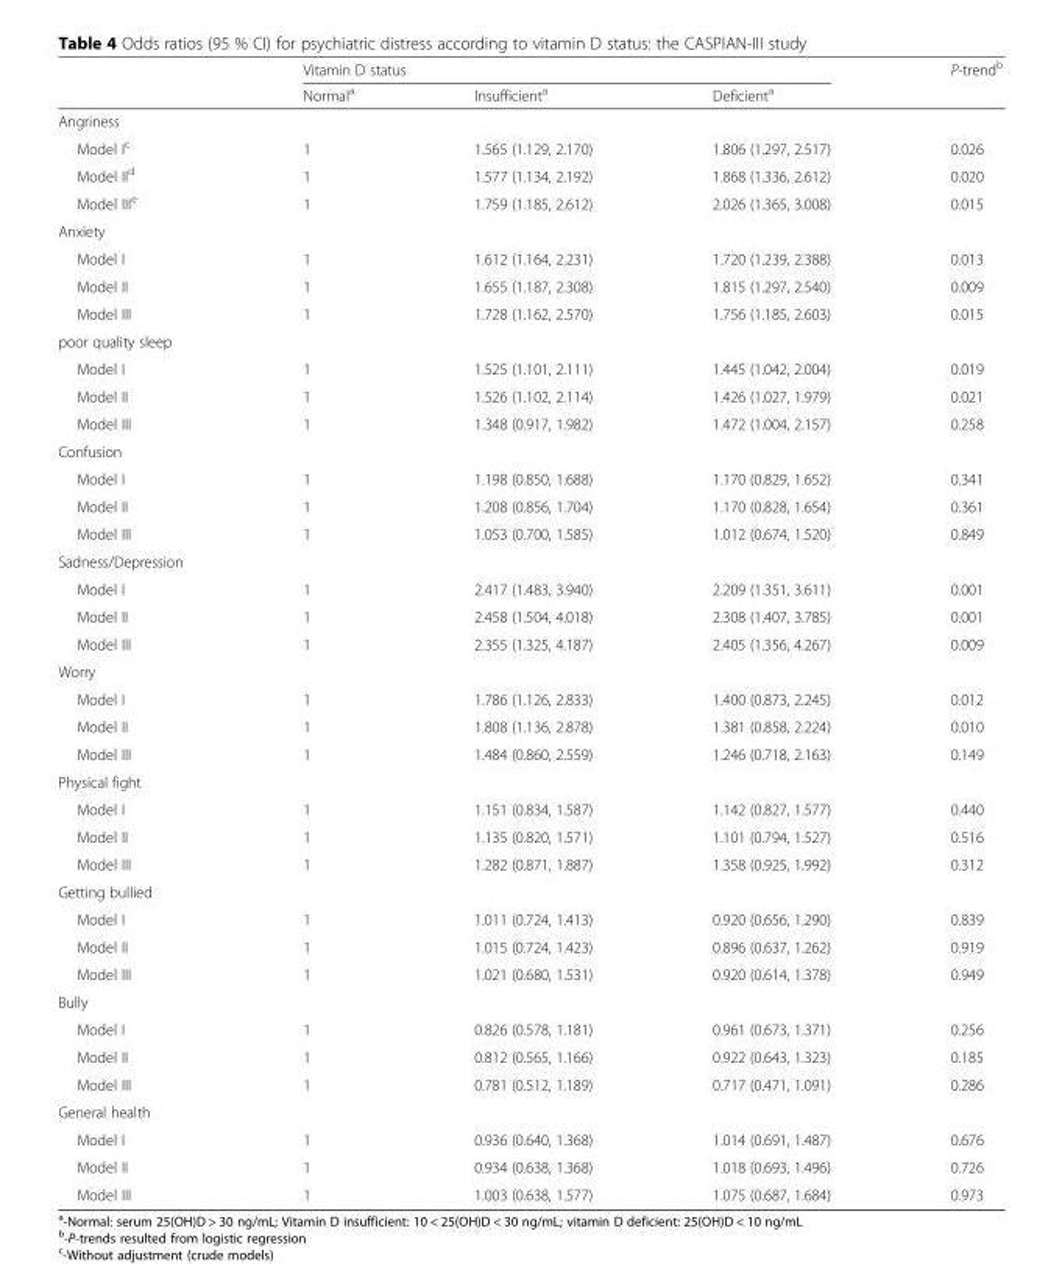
<table><thead><tr><td rowspan="2"></td><td colspan="3">Vitamin D status</td><td rowspan="2">P-trend<sup>b</sup></td></tr><tr><td>Normal<sup>a</sup></td><td>Insufficient<sup>a</sup></td><td>Deficient<sup>a</sup></td></tr></thead><tbody><tr><td colspan="5">Angriness</td></tr><tr><td>Model I<sup>c</sup></td><td>1</td><td>1.565 (1.129, 2.170)</td><td>1.806 (1.297, 2.517)</td><td>0.026</td></tr><tr><td>Model II<sup>d</sup></td><td>1</td><td>1.577 (1.134, 2.192)</td><td>1.868 (1.336, 2.612)</td><td>0.020</td></tr><tr><td>Model III<sup>e</sup></td><td>1</td><td>1.759 (1.185, 2.612)</td><td>2.026 (1.365, 3.008)</td><td>0.015</td></tr><tr><td colspan="5">Anxiety</td></tr><tr><td>Model I</td><td>1</td><td>1.612 (1.164, 2.231)</td><td>1.720 (1.239, 2.388)</td><td>0.013</td></tr><tr><td>Model II</td><td>1</td><td>1.655 (1.187, 2.308)</td><td>1.815 (1.297, 2.540)</td><td>0.009</td></tr><tr><td>Model III</td><td>1</td><td>1.728 (1.162, 2.570)</td><td>1.756 (1.185, 2.603)</td><td>0.015</td></tr><tr><td colspan="5">poor quality sleep</td></tr><tr><td>Model I</td><td>1</td><td>1.525 (1.101, 2.111)</td><td>1.445 (1.042, 2.004)</td><td>0.019</td></tr><tr><td>Model II</td><td>1</td><td>1.526 (1.102, 2.114)</td><td>1.426 (1.027, 1.979)</td><td>0.021</td></tr><tr><td>Model III</td><td>1</td><td>1.348 (0.917, 1.982)</td><td>1.472 (1.004, 2.157)</td><td>0.258</td></tr><tr><td colspan="5">Confusion</td></tr><tr><td>Model I</td><td>1</td><td>1.198 (0.850, 1.688)</td><td>1.170 (0.829, 1.652)</td><td>0.341</td></tr><tr><td>Model II</td><td>1</td><td>1.208 (0.856, 1.704)</td><td>1.170 (0.828, 1.654)</td><td>0.361</td></tr><tr><td>Model III</td><td>1</td><td>1.053 (0.700, 1.585)</td><td>1.012 (0.674, 1.520)</td><td>0.849</td></tr><tr><td colspan="5">Sadness/Depression</td></tr><tr><td>Model I</td><td>1</td><td>2.417 (1.483, 3.940)</td><td>2.209 (1.351, 3.611)</td><td>0.001</td></tr><tr><td>Model II</td><td>1</td><td>2.458 (1.504, 4.018)</td><td>2.308 (1.407, 3.785)</td><td>0.001</td></tr><tr><td>Model III</td><td>1</td><td>2.355 (1.325, 4.187)</td><td>2.405 (1.356, 4.267)</td><td>0.009</td></tr><tr><td colspan="5">Worry</td></tr><tr><td>Model I</td><td>1</td><td>1.786 (1.126, 2.833)</td><td>1.400 (0.873, 2.245)</td><td>0.012</td></tr><tr><td>Model II</td><td>1</td><td>1.808 (1.136, 2.878)</td><td>1.381 (0.858, 2.224)</td><td>0.010</td></tr><tr><td>Model III</td><td>1</td><td>1.484 (0.860, 2.559)</td><td>1.246 (0.718, 2.163)</td><td>0.149</td></tr><tr><td colspan="5">Physical fight</td></tr><tr><td>Model I</td><td>1</td><td>1.151 (0.834, 1.587)</td><td>1.142 (0.827, 1.577)</td><td>0.440</td></tr><tr><td>Model II</td><td>1</td><td>1.135 (0.820, 1.571)</td><td>1.101 (0.794, 1.527)</td><td>0.516</td></tr><tr><td>Model III</td><td>1</td><td>1.282 (0.871, 1.887)</td><td>1.358 (0.925, 1.992)</td><td>0.312</td></tr><tr><td colspan="5">Getting bullied</td></tr><tr><td>Model I</td><td>1</td><td>1.011 (0.724, 1.413)</td><td>0.920 (0.656, 1.290)</td><td>0.839</td></tr><tr><td>Model II</td><td>1</td><td>1.015 (0.724, 1.423)</td><td>0.896 (0.637, 1.262)</td><td>0.919</td></tr><tr><td>Model III</td><td>1</td><td>1.021 (0.680, 1.531)</td><td>0.920 (0.614, 1.378)</td><td>0.949</td></tr><tr><td colspan="5">Bully</td></tr><tr><td>Model I</td><td>1</td><td>0.826 (0.578, 1.181)</td><td>0.961 (0.673, 1.371)</td><td>0.256</td></tr><tr><td>Model II</td><td>1</td><td>0.812 (0.565, 1.166)</td><td>0.922 (0.643, 1.323)</td><td>0.185</td></tr><tr><td>Model III</td><td>1</td><td>0.781 (0.512, 1.189)</td><td>0.717 (0.471, 1.091)</td><td>0.286</td></tr><tr><td colspan="5">General health</td></tr><tr><td>Model I</td><td>1</td><td>0.936 (0.640, 1.368)</td><td>1.014 (0.691, 1.487)</td><td>0.676</td></tr><tr><td>Model II</td><td>1</td><td>0.934 (0.638, 1.368)</td><td>1.018 (0.693, 1.496)</td><td>0.726</td></tr><tr><td>Model III</td><td>1</td><td>1.003 (0.638, 1.577)</td><td>1.075 (0.687, 1.684)</td><td>0.973</td></tr></tbody></table>